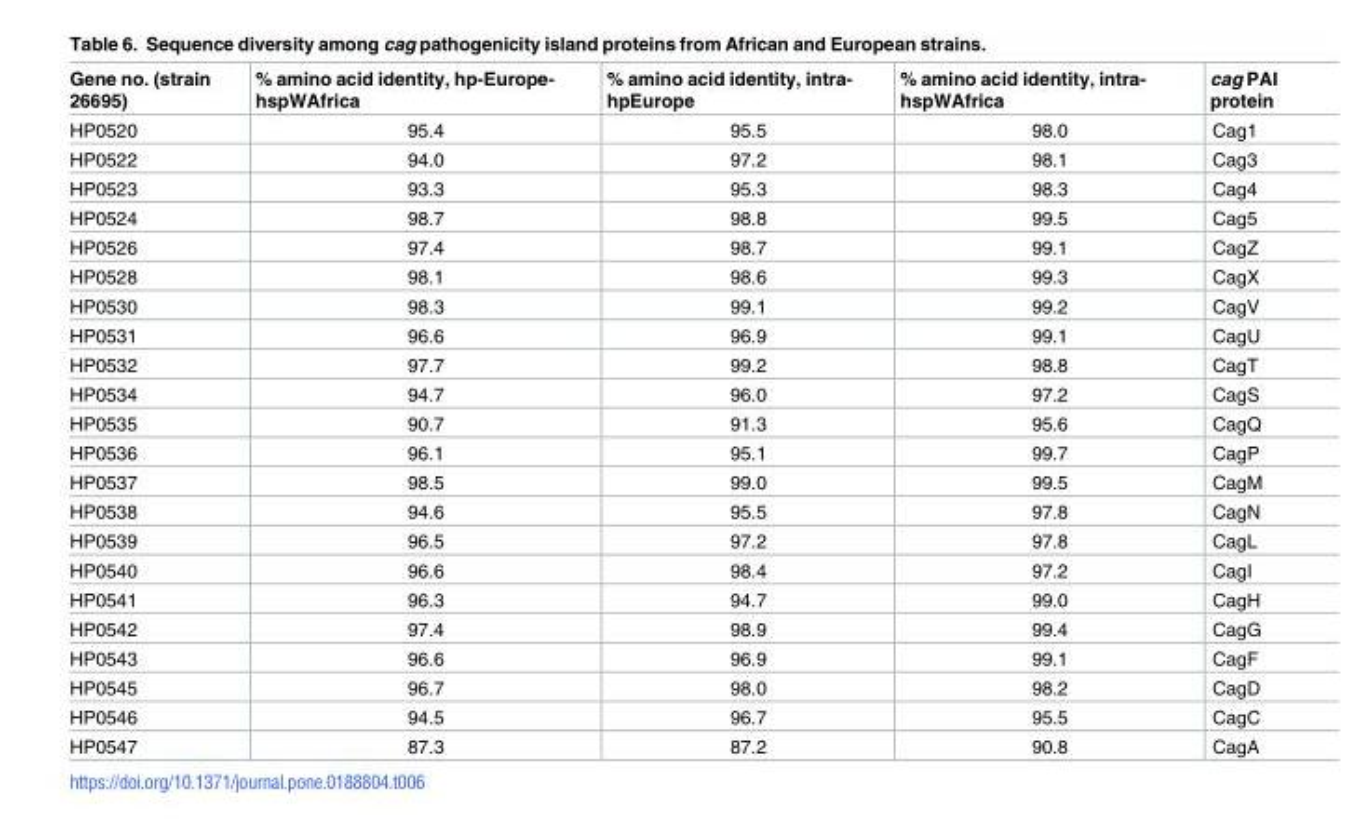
<table><thead><tr><td>Gene no. (strain 26695)</td><td>% amino acid identity, hp-Europe- hspWAfrica</td><td>% amino acid identity, intra- hpEurope</td><td>% amino acid identity, intra- hspWAfrica</td><td>cag PAI protein</td></tr></thead><tbody><tr><td>HP0520</td><td>95.4</td><td>95.5</td><td>98.0</td><td>Cag1</td></tr><tr><td>HP0522</td><td>94.0</td><td>97.2</td><td>98.1</td><td>Cag3</td></tr><tr><td>HP0523</td><td>93.3</td><td>95.3</td><td>98.3</td><td>Cag4</td></tr><tr><td>HP0524</td><td>98.7</td><td>98.8</td><td>99.5</td><td>Cag5</td></tr><tr><td>HP0526</td><td>97.4</td><td>98.7</td><td>99.1</td><td>CagZ</td></tr><tr><td>HP0528</td><td>98.1</td><td>98.6</td><td>99.3</td><td>CagX</td></tr><tr><td>HP0530</td><td>98.3</td><td>99.1</td><td>99.2</td><td>CagV</td></tr><tr><td>HP0531</td><td>96.6</td><td>96.9</td><td>99.1</td><td>CagU</td></tr><tr><td>HP0532</td><td>97.7</td><td>99.2</td><td>98.8</td><td>CagT</td></tr><tr><td>HP0534</td><td>94.7</td><td>96.0</td><td>97.2</td><td>CagS</td></tr><tr><td>HP0535</td><td>90.7</td><td>91.3</td><td>95.6</td><td>CagQ</td></tr><tr><td>HP0536</td><td>96.1</td><td>95.1</td><td>99.7</td><td>CagP</td></tr><tr><td>HP0537</td><td>98.5</td><td>99.0</td><td>99.5</td><td>CagM</td></tr><tr><td>HP0538</td><td>94.6</td><td>95.5</td><td>97.8</td><td>CagN</td></tr><tr><td>HP0539</td><td>96.5</td><td>97.2</td><td>97.8</td><td>CagL</td></tr><tr><td>HP0540</td><td>96.6</td><td>98.4</td><td>97.2</td><td>CagI</td></tr><tr><td>HP0541</td><td>96.3</td><td>94.7</td><td>99.0</td><td>CagH</td></tr><tr><td>HP0542</td><td>97.4</td><td>98.9</td><td>99.4</td><td>CagG</td></tr><tr><td>HP0543</td><td>96.6</td><td>96.9</td><td>99.1</td><td>CagF</td></tr><tr><td>HP0545</td><td>96.7</td><td>98.0</td><td>98.2</td><td>CagD</td></tr><tr><td>HP0546</td><td>94.5</td><td>96.7</td><td>95.5</td><td>CagC</td></tr><tr><td>HP0547</td><td>87.3</td><td>87.2</td><td>90.8</td><td>CagA</td></tr></tbody></table>